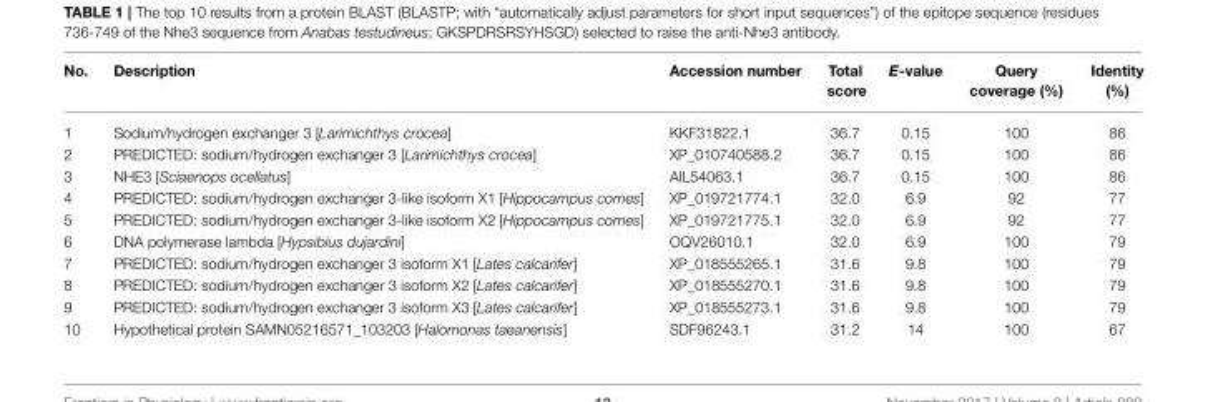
<table><thead><tr><td>No.</td><td>Description</td><td>Accession number</td><td>Total score</td><td>E-value</td><td>Query coverage (%)</td><td>Identity (%)</td></tr></thead><tbody><tr><td>1</td><td>Sodium/hydrogen exchanger 3 [Larimichthys crocea]</td><td>KKF31822.1</td><td>36.7</td><td>0.15</td><td>100</td><td>86</td></tr><tr><td>2</td><td>PREDICTED: sodium/hydrogen exchanger 3 [Larimichthys crocea]</td><td>XP_010740588.2</td><td>36.7</td><td>0.15</td><td>100</td><td>86</td></tr><tr><td>3</td><td>NHE3 [Sciaenops ocellatus]</td><td>AIL54063.1</td><td>36.7</td><td>0.15</td><td>100</td><td>86</td></tr><tr><td>4</td><td>PREDICTED: sodium/hydrogen exchanger 3-like isoform X1 [Hippocampus comes]</td><td>XP_019721774.1</td><td>32.0</td><td>6.9</td><td>92</td><td>77</td></tr><tr><td>5</td><td>PREDICTED: sodium/hydrogen exchanger 3-like isoform X2 [Hippocampus comes]</td><td>XP_019721775.1</td><td>32.0</td><td>6.9</td><td>92</td><td>77</td></tr><tr><td>6</td><td>DNA polymerase lambda [Hypsibius dujardini]</td><td>OQV26010.1</td><td>32.0</td><td>6.9</td><td>100</td><td>79</td></tr><tr><td>7</td><td>PREDICTED: sodium/hydrogen exchanger 3 isoform X1 [Lates calcarifer]</td><td>XP_018555265.1</td><td>31.6</td><td>9.8</td><td>100</td><td>79</td></tr><tr><td>8</td><td>PREDICTED: sodium/hydrogen exchanger 3 isoform X2 [Lates calcarifer]</td><td>XP_018555270.1</td><td>31.6</td><td>9.8</td><td>100</td><td>79</td></tr><tr><td>9</td><td>PREDICTED: sodium/hydrogen exchanger 3 isoform X3 [Lates calcarifer]</td><td>XP_018555273.1</td><td>31.6</td><td>9.8</td><td>100</td><td>79</td></tr><tr><td>10</td><td>Hypothetical protein SAMN05216571_103203 [Halomonas taeanensis]</td><td>SDF96243.1</td><td>31.2</td><td>14</td><td>100</td><td>67</td></tr></tbody></table>